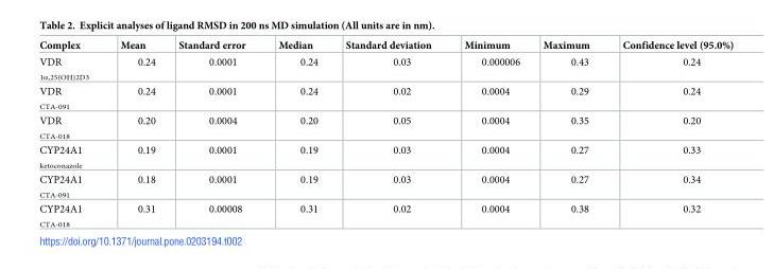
<table><thead><tr><td>Complex</td><td>Mean</td><td>Standard error</td><td>Median</td><td>Standard deviation</td><td>Minimum</td><td>Maximum</td><td>Confidence level (95.0%)</td></tr></thead><tbody><tr><td>VDR <sub>1α,25(OH)2D3</sub></td><td>0.24</td><td>0.0001</td><td>0.24</td><td>0.03</td><td>0.000006</td><td>0.43</td><td>0.24</td></tr><tr><td>VDR <sub>CTA-091</sub></td><td>0.24</td><td>0.0001</td><td>0.24</td><td>0.02</td><td>0.0004</td><td>0.29</td><td>0.24</td></tr><tr><td>VDR <sub>CTA-018</sub></td><td>0.20</td><td>0.0004</td><td>0.20</td><td>0.05</td><td>0.0004</td><td>0.35</td><td>0.20</td></tr><tr><td>CYP24A1 <sub>ketoconazole</sub></td><td>0.19</td><td>0.0001</td><td>0.19</td><td>0.03</td><td>0.0004</td><td>0.27</td><td>0.33</td></tr><tr><td>CYP24A1 <sub>CTA-091</sub></td><td>0.18</td><td>0.0001</td><td>0.19</td><td>0.03</td><td>0.0004</td><td>0.27</td><td>0.34</td></tr><tr><td>CYP24A1 <sub>CTA-018</sub></td><td>0.31</td><td>0.00008</td><td>0.31</td><td>0.02</td><td>0.0004</td><td>0.38</td><td>0.32</td></tr></tbody></table>